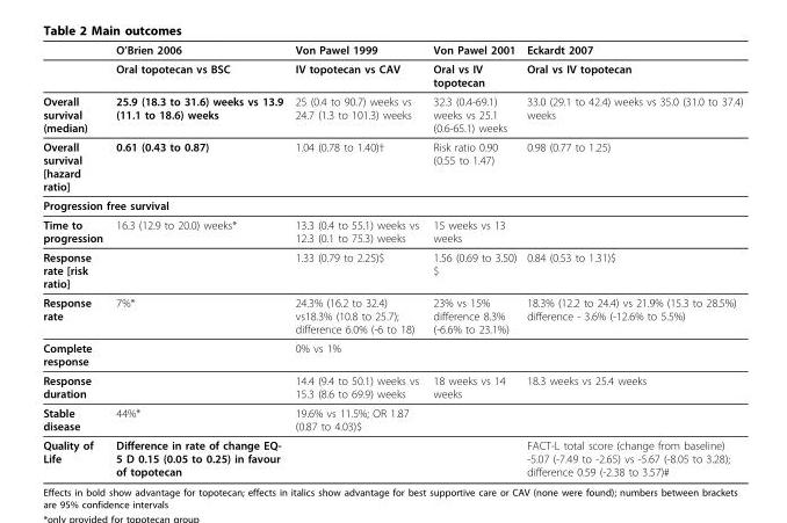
<table><thead><tr><td></td><td>O’Brien 2006</td><td>Von Pawel 1999</td><td>Von Pawel 2001</td><td>Eckardt 2007</td></tr></thead><tbody><tr><td></td><td>Oral topotecan vs BSC</td><td>IV topotecan vs CAV</td><td>Oral vs IV topotecan</td><td>Oral vs IV topotecan</td></tr><tr><td>Overall survival (median)</td><td>25.9 (18.3 to 31.6) weeks vs 13.9 (11.1 to 18.6) weeks</td><td>25 (0.4 to 90.7) weeks vs 24.7 (1.3 to 101.3) weeks</td><td>32.3 (0.4-69.1) weeks vs 25.1 (0.6-65.1) weeks</td><td>33.0 (29.1 to 42.4) weeks vs 35.0 (31.0 to 37.4) weeks</td></tr><tr><td>Overall survival [hazard ratio]</td><td>0.61 (0.43 to 0.87)</td><td>1.04 (0.78 to 1.40)†</td><td>Risk ratio 0.90 (0.55 to 1.47)</td><td>0.98 (0.77 to 1.25)</td></tr><tr><td colspan="5">Progression free survival</td></tr><tr><td>Time to progression</td><td>16.3 (12.9 to 20.0) weeks*</td><td>13.3 (0.4 to 55.1) weeks vs 12.3 (0.1 to 75.3) weeks</td><td>15 weeks vs 13 weeks</td><td></td></tr><tr><td>Response rate [risk ratio]</td><td></td><td>1.33 (0.79 to 2.25)$</td><td>1.56 (0.69 to 3.50) $</td><td>0.84 (0.53 to 1.31)$</td></tr><tr><td>Response rate</td><td>7%*</td><td>24.3% (16.2 to 32.4) vs18.3% (10.8 to 25.7); difference 6.0% (-6 to 18)</td><td>23% vs 15% difference 8.3% (-6.6% to 23.1%)</td><td>18.3% (12.2 to 24.4) vs 21.9% (15.3 to 28.5%) difference - 3.6% (-12.6% to 5.5%)</td></tr><tr><td>Complete response</td><td></td><td>0% vs 1%</td><td></td><td></td></tr><tr><td>Response duration</td><td></td><td>14.4 (9.4 to 50.1) weeks vs 15.3 (8.6 to 69.9) weeks</td><td>18 weeks vs 14 weeks</td><td>18.3 weeks vs 25.4 weeks</td></tr><tr><td>Stable disease</td><td>44%*</td><td>19.6% vs 11.5%; OR 1.87 (0.87 to 4.03)$</td><td></td><td></td></tr><tr><td>Quality of Life</td><td>Difference in rate of change EQ- 5 D 0.15 (0.05 to 0.25) in favour of topotecan</td><td></td><td></td><td>FACT-L total score (change from baseline) -5.07 (-7.49 to -2.65) vs -5.67 (-8.05 to 3.28); difference 0.59 (-2.38 to 3.57)#</td></tr></tbody></table>